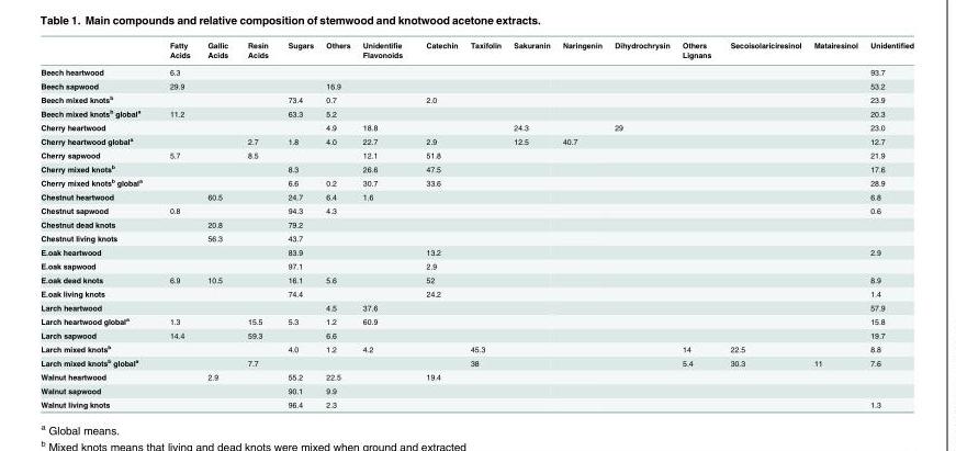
<table><thead><tr><td></td><td>Fatty Acids</td><td>Gallic Acids</td><td>Resin Acids</td><td>Sugars</td><td>Others</td><td>Unidentifie Flavonoids</td><td>Catechin</td><td>Taxifolin</td><td>Sakuranin</td><td>Naringenin</td><td>Dihydrochrysin</td><td>Others Lignans</td><td>Secoisolariciresinol</td><td>Matairesinol</td><td>Unidentified</td></tr></thead><tbody><tr><td>Beech heartwood</td><td>6.3</td><td></td><td></td><td></td><td></td><td></td><td></td><td></td><td></td><td></td><td></td><td></td><td></td><td></td><td>93.7</td></tr><tr><td>Beech sapwood</td><td>29.9</td><td></td><td></td><td></td><td>16.9</td><td></td><td></td><td></td><td></td><td></td><td></td><td></td><td></td><td></td><td>53.2</td></tr><tr><td>Beech mixed knots<sup>b</sup></td><td></td><td></td><td></td><td>73.4</td><td>0.7</td><td></td><td>2.0</td><td></td><td></td><td></td><td></td><td></td><td></td><td></td><td>23.9</td></tr><tr><td>Beech mixed knots<sup>b</sup> global<sup>a</sup></td><td>11.2</td><td></td><td></td><td>63.3</td><td>5.2</td><td></td><td></td><td></td><td></td><td></td><td></td><td></td><td></td><td></td><td>20.3</td></tr><tr><td>Cherry heartwood</td><td></td><td></td><td></td><td></td><td>4.9</td><td>18.8</td><td></td><td></td><td>24.3</td><td></td><td>29</td><td></td><td></td><td></td><td>23.0</td></tr><tr><td>Cherry heartwood global<sup>a</sup></td><td></td><td></td><td>2.7</td><td>1.8</td><td>4.0</td><td>22.7</td><td>2.9</td><td></td><td>12.5</td><td>40.7</td><td></td><td></td><td></td><td></td><td>12.7</td></tr><tr><td>Cherry sapwood</td><td>5.7</td><td></td><td>8.5</td><td></td><td></td><td>12.1</td><td>51.8</td><td></td><td></td><td></td><td></td><td></td><td></td><td></td><td>21.9</td></tr><tr><td>Cherry mixed knots<sup>b</sup></td><td></td><td></td><td></td><td>8.3</td><td></td><td>26.6</td><td>47.5</td><td></td><td></td><td></td><td></td><td></td><td></td><td></td><td>17.6</td></tr><tr><td>Cherry mixed knots<sup>b</sup> global<sup>a</sup></td><td></td><td></td><td></td><td>6.6</td><td>0.2</td><td>30.7</td><td>33.6</td><td></td><td></td><td></td><td></td><td></td><td></td><td></td><td>28.9</td></tr><tr><td>Chestnut heartwood</td><td></td><td>60.5</td><td></td><td>24.7</td><td>6.4</td><td>1.6</td><td></td><td></td><td></td><td></td><td></td><td></td><td></td><td></td><td>6.8</td></tr><tr><td>Chestnut sapwood</td><td>0.8</td><td></td><td></td><td>94.3</td><td>4.3</td><td></td><td></td><td></td><td></td><td></td><td></td><td></td><td></td><td></td><td>0.6</td></tr><tr><td>Chestnut dead knots</td><td></td><td>20.8</td><td></td><td>79.2</td><td></td><td></td><td></td><td></td><td></td><td></td><td></td><td></td><td></td><td></td><td></td></tr><tr><td>Chestnut living knots</td><td></td><td>56.3</td><td></td><td>43.7</td><td></td><td></td><td></td><td></td><td></td><td></td><td></td><td></td><td></td><td></td><td></td></tr><tr><td>E.oak heartwood</td><td></td><td></td><td></td><td>83.9</td><td></td><td></td><td>13.2</td><td></td><td></td><td></td><td></td><td></td><td></td><td></td><td>2.9</td></tr><tr><td>E.oak sapwood</td><td></td><td></td><td></td><td>97.1</td><td></td><td></td><td>2.9</td><td></td><td></td><td></td><td></td><td></td><td></td><td></td><td></td></tr><tr><td>E.oak dead knots</td><td>6.9</td><td>10.5</td><td></td><td>16.1</td><td>5.6</td><td></td><td>52</td><td></td><td></td><td></td><td></td><td></td><td></td><td></td><td>8.9</td></tr><tr><td>E.oak living knots</td><td></td><td></td><td></td><td>74.4</td><td></td><td></td><td>24.2</td><td></td><td></td><td></td><td></td><td></td><td></td><td></td><td>1.4</td></tr><tr><td>Larch heartwood</td><td></td><td></td><td></td><td></td><td>4.5</td><td>37.6</td><td></td><td></td><td></td><td></td><td></td><td></td><td></td><td></td><td>57.9</td></tr><tr><td>Larch heartwood global<sup>a</sup></td><td>1.3</td><td></td><td>15.5</td><td>5.3</td><td>1.2</td><td>60.9</td><td></td><td></td><td></td><td></td><td></td><td></td><td></td><td></td><td>15.8</td></tr><tr><td>Larch sapwood</td><td>14.4</td><td></td><td>59.3</td><td></td><td>6.6</td><td></td><td></td><td></td><td></td><td></td><td></td><td></td><td></td><td></td><td>19.7</td></tr><tr><td>Larch mixed knots<sup>b</sup></td><td></td><td></td><td></td><td>4.0</td><td>1.2</td><td>4.2</td><td></td><td>45.3</td><td></td><td></td><td></td><td>14</td><td>22.5</td><td></td><td>8.8</td></tr><tr><td>Larch mixed knots<sup>b</sup> global<sup>a</sup></td><td></td><td></td><td>7.7</td><td></td><td></td><td></td><td></td><td>38</td><td></td><td></td><td></td><td>5.4</td><td>30.3</td><td>11</td><td>7.6</td></tr><tr><td>Walnut heartwood</td><td></td><td>2.9</td><td></td><td>55.2</td><td>22.5</td><td></td><td>19.4</td><td></td><td></td><td></td><td></td><td></td><td></td><td></td><td></td></tr><tr><td>Walnut sapwood</td><td></td><td></td><td></td><td>90.1</td><td>9.9</td><td></td><td></td><td></td><td></td><td></td><td></td><td></td><td></td><td></td><td></td></tr><tr><td>Walnut living knots</td><td></td><td></td><td></td><td>96.4</td><td>2.3</td><td></td><td></td><td></td><td></td><td></td><td></td><td></td><td></td><td></td><td>1.3</td></tr></tbody></table>